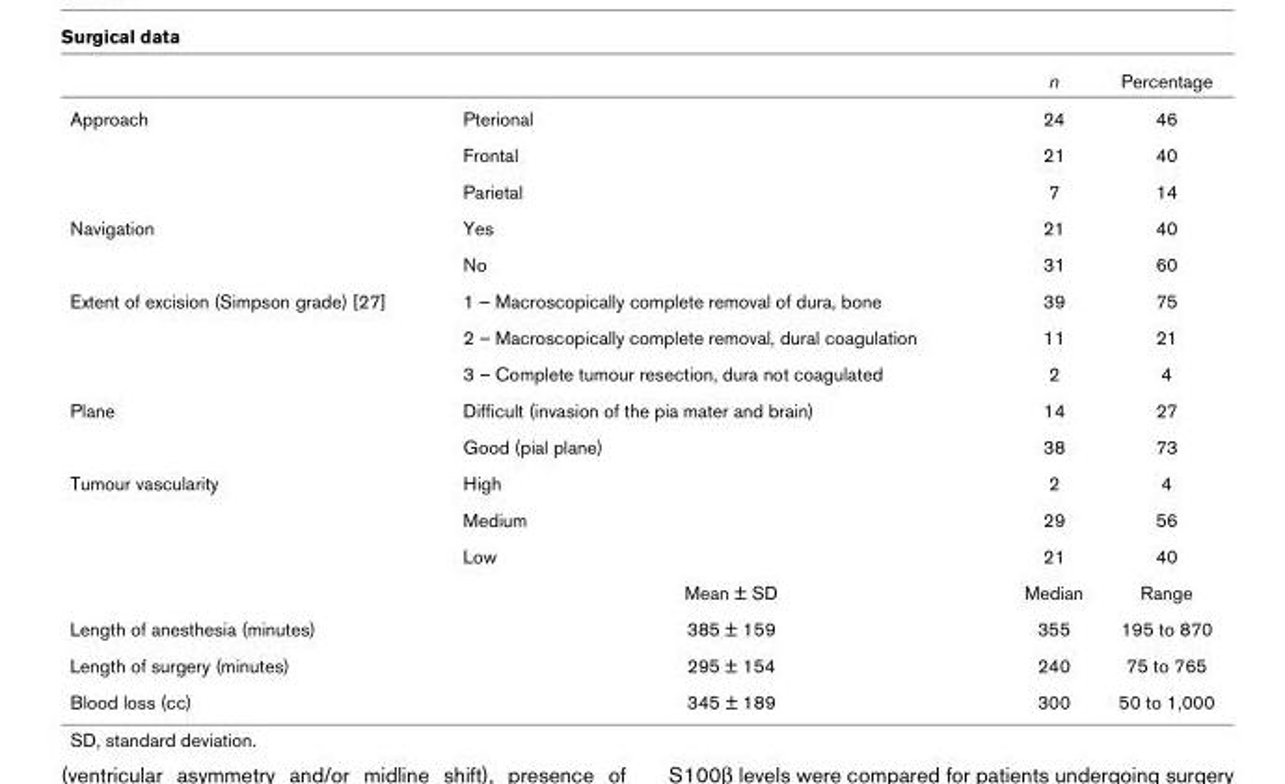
<table><thead><tr><td></td><td></td><td>n</td><td>Percentage</td></tr></thead><tbody><tr><td rowspan="3">Approach</td><td>Pterional</td><td>24</td><td>46</td></tr><tr><td>Frontal</td><td>21</td><td>40</td></tr><tr><td>Parietal</td><td>7</td><td>14</td></tr><tr><td rowspan="2">Navigation</td><td>Yes</td><td>21</td><td>40</td></tr><tr><td>No</td><td>31</td><td>60</td></tr><tr><td rowspan="3">Extent of excision (Simpson grade) [27]</td><td>1 – Macroscopically complete removal of dura, bone</td><td>39</td><td>75</td></tr><tr><td>2 – Macroscopically complete removal, dural coagulation</td><td>11</td><td>21</td></tr><tr><td>3 – Complete tumour resection, dura not coagulated</td><td>2</td><td>4</td></tr><tr><td rowspan="2">Plane</td><td>Difficult (invasion of the pia mater and brain)</td><td>14</td><td>27</td></tr><tr><td>Good (pial plane)</td><td>38</td><td>73</td></tr><tr><td rowspan="4">Tumour vascularity</td><td>High</td><td>2</td><td>4</td></tr><tr><td>Medium</td><td>29</td><td>56</td></tr><tr><td>Low</td><td>21</td><td>40</td></tr><tr><td>Mean ± SD</td><td>Median</td><td>Range</td></tr><tr><td>Length of anesthesia (minutes)</td><td>385 ± 159</td><td>355</td><td>195 to 870</td></tr><tr><td>Length of surgery (minutes)</td><td>295 ± 154</td><td>240</td><td>75 to 765</td></tr><tr><td>Blood loss (cc)</td><td>345 ± 189</td><td>300</td><td>50 to 1,000</td></tr></tbody></table>